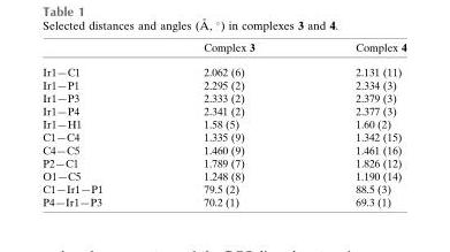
<table><thead><tr><td></td><td>Complex 3</td><td>Complex 4</td></tr></thead><tbody><tr><td>Ir1—C1</td><td>2.062 (6)</td><td>2.131 (11)</td></tr><tr><td>Ir1—P1</td><td>2.295 (2)</td><td>2.334 (3)</td></tr><tr><td>Ir1—P3</td><td>2.333 (2)</td><td>2.379 (3)</td></tr><tr><td>Ir1—P4</td><td>2.341 (2)</td><td>2.377 (3)</td></tr><tr><td>Ir1—H1</td><td>1.58 (5)</td><td>1.60 (2)</td></tr><tr><td>C1—C4</td><td>1.335 (9)</td><td>1.342 (15)</td></tr><tr><td>C4—C5</td><td>1.460 (9)</td><td>1.461 (16)</td></tr><tr><td>P2—C1</td><td>1.789 (7)</td><td>1.826 (12)</td></tr><tr><td>O1—C5</td><td>1.248 (8)</td><td>1.190 (14)</td></tr><tr><td>C1—Ir1—P1</td><td>79.5 (2)</td><td>88.5 (3)</td></tr><tr><td>P4—Ir1—P3</td><td>70.2 (1)</td><td>69.3 (1)</td></tr></tbody></table>